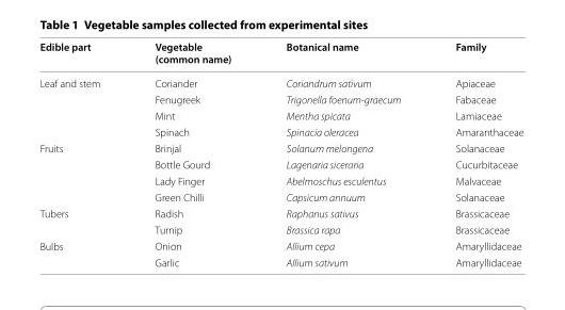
<table><thead><tr><td>Edible part</td><td>Vegetable (common name)</td><td>Botanical name</td><td>Family</td></tr></thead><tbody><tr><td rowspan="4">Leaf and stem</td><td>Coriander</td><td>Coriandrum sativum</td><td>Apiaceae</td></tr><tr><td>Fenugreek</td><td>Trigonella foenum-graecum</td><td>Fabaceae</td></tr><tr><td>Mint</td><td>Mentha spicata</td><td>Lamiaceae</td></tr><tr><td>Spinach</td><td>Spinacia oleracea</td><td>Amaranthaceae</td></tr><tr><td rowspan="4">Fruits</td><td>Brinjal</td><td>Solanum melongena</td><td>Solanaceae</td></tr><tr><td>Bottle Gourd</td><td>Lagenaria siceraria</td><td>Cucurbitaceae</td></tr><tr><td>Lady Finger</td><td>Abelmoschus esculentus</td><td>Malvaceae</td></tr><tr><td>Green Chilli</td><td>Capsicum annuum</td><td>Solanaceae</td></tr><tr><td rowspan="2">Tubers</td><td>Radish</td><td>Raphanus sativus</td><td>Brassicaceae</td></tr><tr><td>Turnip</td><td>Brassica rapa</td><td>Brassicaceae</td></tr><tr><td rowspan="2">Bulbs</td><td>Onion</td><td>Allium cepa</td><td>Amaryllidaceae</td></tr><tr><td>Garlic</td><td>Allium sativum</td><td>Amaryllidaceae</td></tr></tbody></table>